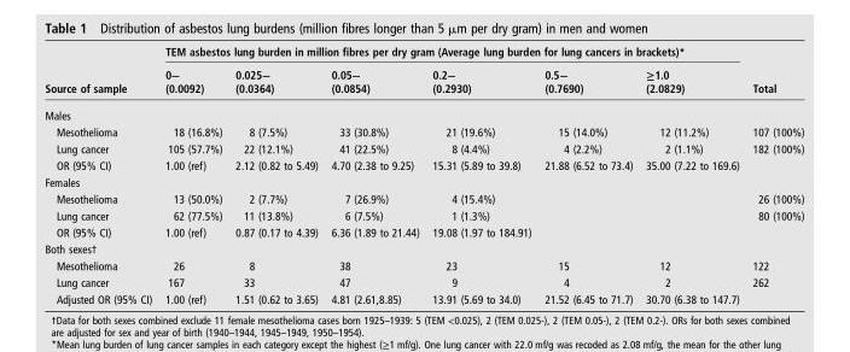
<table><thead><tr><td rowspan="2">Source of sample</td><td colspan="6">TEM asbestos lung burden in million fibres per dry gram (Average lung burden for lung cancers in brackets)*</td><td rowspan="2">Total</td></tr><tr><td>0− (0.0092)</td><td>0.025− (0.0364)</td><td>0.05− (0.0854)</td><td>0.2− (0.2930)</td><td>0.5− (0.7690)</td><td>≥1.0 (2.0829)</td></tr></thead><tbody><tr><td colspan="8">Males</td></tr><tr><td>Mesothelioma</td><td>18 (16.8%)</td><td>8 (7.5%)</td><td>33 (30.8%)</td><td>21 (19.6%)</td><td>15 (14.0%)</td><td>12 (11.2%)</td><td>107 (100%)</td></tr><tr><td>Lung cancer</td><td>105 (57.7%)</td><td>22 (12.1%)</td><td>41 (22.5%)</td><td>8 (4.4%)</td><td>4 (2.2%)</td><td>2 (1.1%)</td><td>182 (100%)</td></tr><tr><td>OR (95% CI)</td><td>1.00 (ref)</td><td>2.12 (0.82 to 5.49)</td><td>4.70 (2.38 to 9.25)</td><td>15.31 (5.89 to 39.8)</td><td>21.88 (6.52 to 73.4)</td><td>35.00 (7.22 to 169.6)</td><td></td></tr><tr><td colspan="8">Females</td></tr><tr><td>Mesothelioma</td><td>13 (50.0%)</td><td>2 (7.7%)</td><td>7 (26.9%)</td><td>4 (15.4%)</td><td></td><td></td><td>26 (100%)</td></tr><tr><td>Lung cancer</td><td>62 (77.5%)</td><td>11 (13.8%)</td><td>6 (7.5%)</td><td>1 (1.3%)</td><td></td><td></td><td>80 (100%)</td></tr><tr><td>OR (95% CI)</td><td>1.00 (ref)</td><td>0.87 (0.17 to 4.39)</td><td>6.36 (1.89 to 21.44)</td><td>19.08 (1.97 to 184.91)</td><td></td><td></td><td></td></tr><tr><td colspan="8">Both sexes†</td></tr><tr><td>Mesothelioma</td><td>26</td><td>8</td><td>38</td><td>23</td><td>15</td><td>12</td><td>122</td></tr><tr><td>Lung cancer</td><td>167</td><td>33</td><td>47</td><td>9</td><td>4</td><td>2</td><td>262</td></tr><tr><td>Adjusted OR (95% CI)</td><td>1.00 (ref)</td><td>1.51 (0.62 to 3.65)</td><td>4.81 (2.61,8.85)</td><td>13.91 (5.69 to 34.0)</td><td>21.52 (6.45 to 71.7)</td><td>30.70 (6.38 to 147.7)</td><td></td></tr></tbody></table>